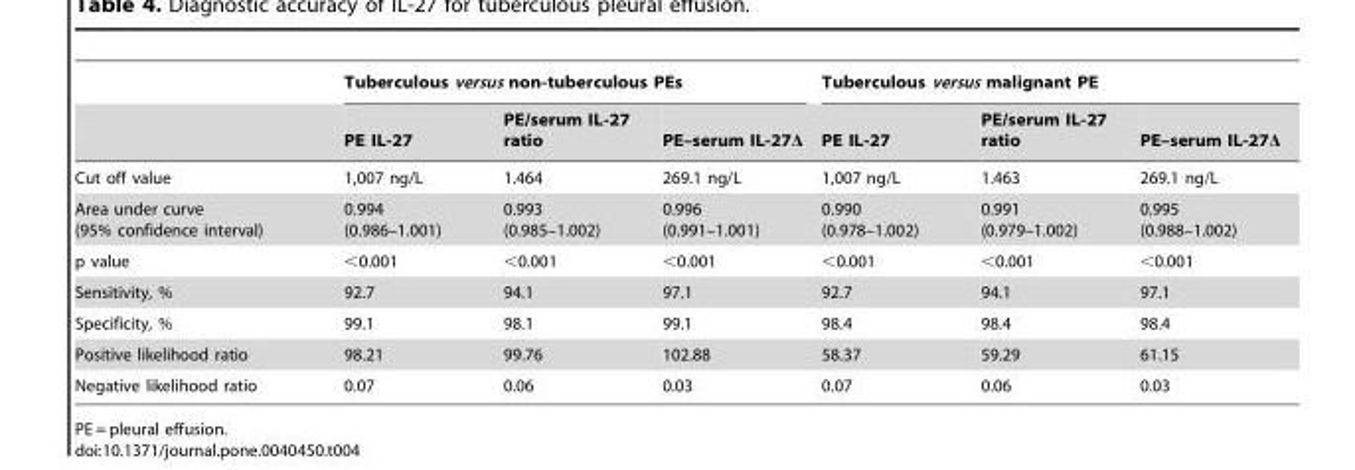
<table><thead><tr><td rowspan="2"></td><td colspan="3">Tuberculous versus non-tuberculous PEs</td><td colspan="3">Tuberculous versus malignant PE</td></tr><tr><td>PE IL-27</td><td>PE/serum IL-27 ratio</td><td>PE–serum IL-27Δ</td><td>PE IL-27</td><td>PE/serum IL-27 ratio</td><td>PE–serum IL-27Δ</td></tr></thead><tbody><tr><td>Cut off value</td><td>1,007 ng/L</td><td>1.464</td><td>269.1 ng/L</td><td>1,007 ng/L</td><td>1.463</td><td>269.1 ng/L</td></tr><tr><td>Area under curve (95% confidence interval)</td><td>0.994 (0.986–1.001)</td><td>0.993 (0.985–1.002)</td><td>0.996 (0.991–1.001)</td><td>0.990 (0.978–1.002)</td><td>0.991 (0.979–1.002)</td><td>0.995 (0.988–1.002)</td></tr><tr><td>p value</td><td>&lt;0.001</td><td>&lt;0.001</td><td>&lt;0.001</td><td>&lt;0.001</td><td>&lt;0.001</td><td>&lt;0.001</td></tr><tr><td>Sensitivity, %</td><td>92.7</td><td>94.1</td><td>97.1</td><td>92.7</td><td>94.1</td><td>97.1</td></tr><tr><td>Specificity, %</td><td>99.1</td><td>98.1</td><td>99.1</td><td>98.4</td><td>98.4</td><td>98.4</td></tr><tr><td>Positive likelihood ratio</td><td>98.21</td><td>99.76</td><td>102.88</td><td>58.37</td><td>59.29</td><td>61.15</td></tr><tr><td>Negative likelihood ratio</td><td>0.07</td><td>0.06</td><td>0.03</td><td>0.07</td><td>0.06</td><td>0.03</td></tr></tbody></table>